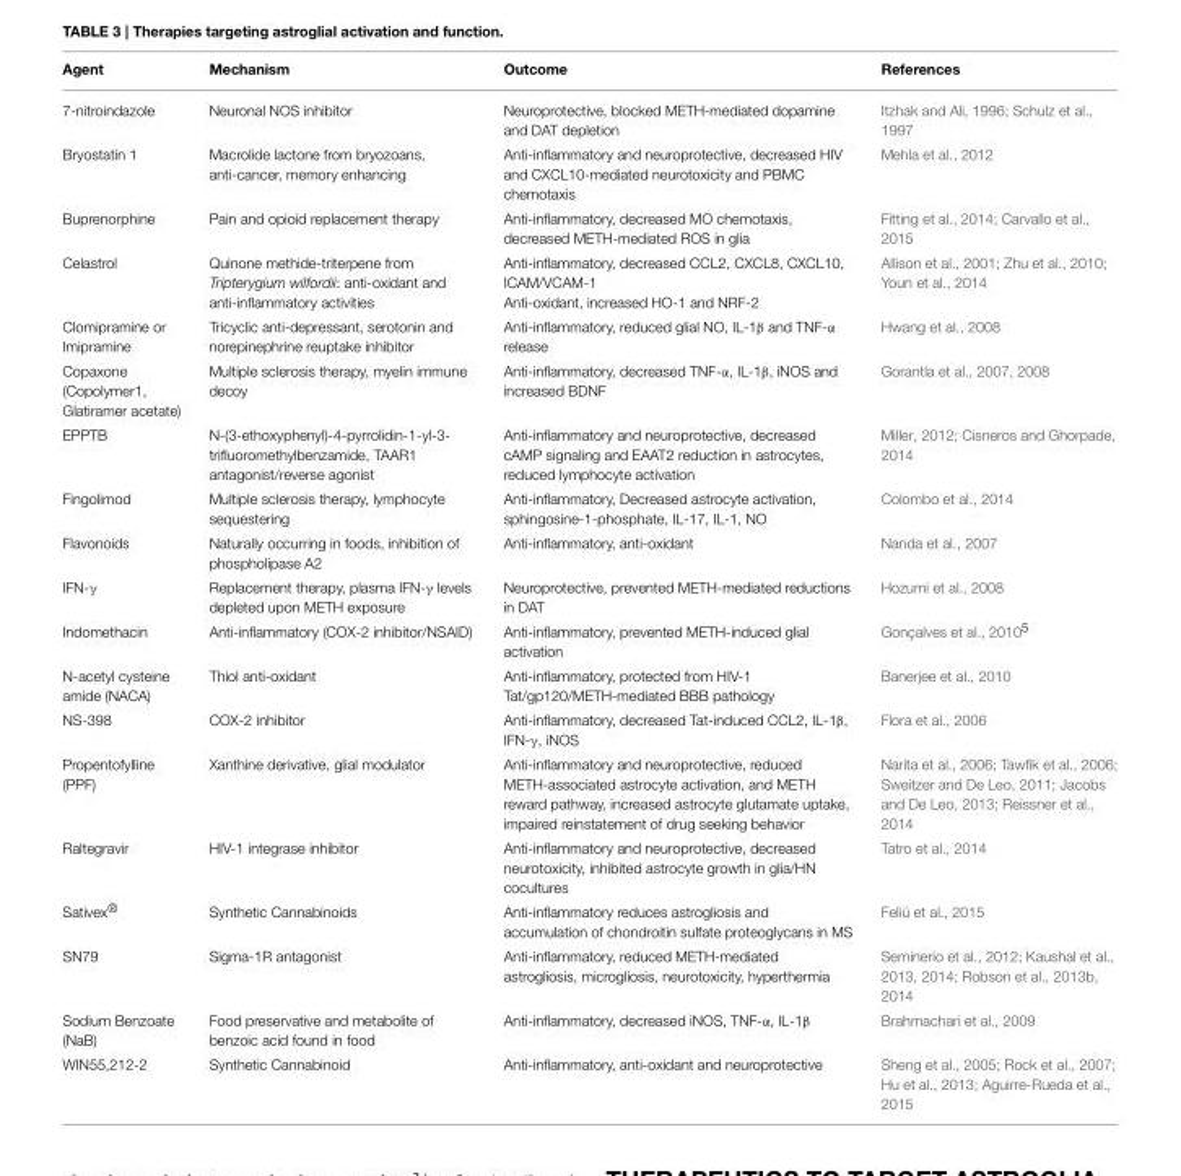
<table><thead><tr><td>Agent</td><td>Mechanism</td><td>Outcome</td><td>References</td></tr></thead><tbody><tr><td>7-nitroindazole</td><td>Neuronal NOS inhibitor</td><td>Neuroprotective, blocked METH-mediated dopamine and DAT depletion</td><td>Itzhak and Ali, 1996; Schulz et al., 1997</td></tr><tr><td>Bryostatin 1</td><td>Macrolide lactone from bryozoans, anti-cancer, memory enhancing</td><td>Anti-inflammatory and neuroprotective, decreased HIV and CXCL10-mediated neurotoxicity and PBMC chemotaxis</td><td>Mehla et al., 2012</td></tr><tr><td>Buprenorphine</td><td>Pain and opioid replacement therapy</td><td>Anti-inflammatory, decreased MO chemotaxis, decreased METH-mediated ROS in glia</td><td>Fitting et al., 2014; Carvallo et al., 2015</td></tr><tr><td>Celastrol</td><td>Quinone methide-triterpene from Tripterygium wilfordii: anti-oxidant and anti-inflammatory activities</td><td>Anti-inflammatory, decreased CCL2, CXCL8, CXCL10, ICAM/VCAM-1 Anti-oxidant, increased HO-1 and NRF-2</td><td>Allison et al., 2001; Zhu et al., 2010; Youn et al., 2014</td></tr><tr><td>Clomipramine or Imipramine</td><td>Tricyclic anti-depressant, serotonin and norepinephrine reuptake inhibitor</td><td>Anti-inflammatory, reduced glial NO, IL-1β and TNF-α release</td><td>Hwang et al., 2008</td></tr><tr><td>Copaxone (Copolymer1, Glatiramer acetate)</td><td>Multiple sclerosis therapy, myelin immune decoy</td><td>Anti-inflammatory, decreased TNF-α, IL-1β, iNOS and increased BDNF</td><td>Gorantla et al., 2007, 2008</td></tr><tr><td>EPPTB</td><td>N-(3-ethoxyphenyl)-4-pyrrolidin-1-yl-3- trifluoromethylbenzamide, TAAR1 antagonist/reverse agonist</td><td>Anti-inflammatory and neuroprotective, decreased cAMP signaling and EAAT2 reduction in astrocytes, reduced lymphocyte activation</td><td>Miller, 2012; Cisneros and Ghorpade, 2014</td></tr><tr><td>Fingolimod</td><td>Multiple sclerosis therapy, lymphocyte sequestering</td><td>Anti-inflammatory, Decreased astrocyte activation, sphingosine-1-phosphate, IL-17, IL-1, NO</td><td>Colombo et al., 2014</td></tr><tr><td>Flavonoids</td><td>Naturally occurring in foods, inhibition of phospholipase A2</td><td>Anti-inflammatory, anti-oxidant</td><td>Nanda et al., 2007</td></tr><tr><td>IFN-γ</td><td>Replacement therapy, plasma IFN-γ levels depleted upon METH exposure</td><td>Neuroprotective, prevented METH-mediated reductions in DAT</td><td>Hozumi et al., 2008</td></tr><tr><td>Indomethacin</td><td>Anti-inflammatory (COX-2 inhibitor/NSAID)</td><td>Anti-inflammatory, prevented METH-induced glial activation</td><td>Gonçalves et al., 20105</td></tr><tr><td>N-acetyl cysteine amide (NACA)</td><td>Thiol anti-oxidant</td><td>Anti-inflammatory, protected from HIV-1 Tat/gp120/METH-mediated BBB pathology</td><td>Banerjee et al., 2010</td></tr><tr><td>NS-398</td><td>COX-2 inhibitor</td><td>Anti-inflammatory, decreased Tat-induced CCL2, IL-1β, IFN-γ, iNOS</td><td>Flora et al., 2006</td></tr><tr><td>Propentofylline (PPF)</td><td>Xanthine derivative, glial modulator</td><td>Anti-inflammatory and neuroprotective, reduced METH-associated astrocyte activation, and METH reward pathway, increased astrocyte glutamate uptake, impaired reinstatement of drug seeking behavior</td><td>Narita et al., 2006; Tawfik et al., 2006; Sweitzer and De Leo, 2011; Jacobs and De Leo, 2013; Reissner et al., 2014</td></tr><tr><td>Raltegravir</td><td>HIV-1 integrase inhibitor</td><td>Anti-inflammatory and neuroprotective, decreased neurotoxicity, inhibited astrocyte growth in glia/HN cocultures</td><td>Tatro et al., 2014</td></tr><tr><td>Sativex®</td><td>Synthetic Cannabinoids</td><td>Anti-inflammatory reduces astrogliosis and accumulation of chondroitin sulfate proteoglycans in MS</td><td>Feliú et al., 2015</td></tr><tr><td>SN79</td><td>Sigma-1R antagonist</td><td>Anti-inflammatory, reduced METH-mediated astrogliosis, microgliosis, neurotoxicity, hyperthermia</td><td>Seminerio et al., 2012; Kaushal et al., 2013, 2014; Robson et al., 2013b, 2014</td></tr><tr><td>Sodium Benzoate (NaB)</td><td>Food preservative and metabolite of benzoic acid found in food</td><td>Anti-inflammatory, decreased iNOS, TNF-α, IL-1β</td><td>Brahmachari et al., 2009</td></tr><tr><td>WIN55,212-2</td><td>Synthetic Cannabinoid</td><td>Anti-inflammatory, anti-oxidant and neuroprotective</td><td>Sheng et al., 2005; Rock et al., 2007; Hu et al., 2013; Aguirre-Rueda et al., 2015</td></tr></tbody></table>